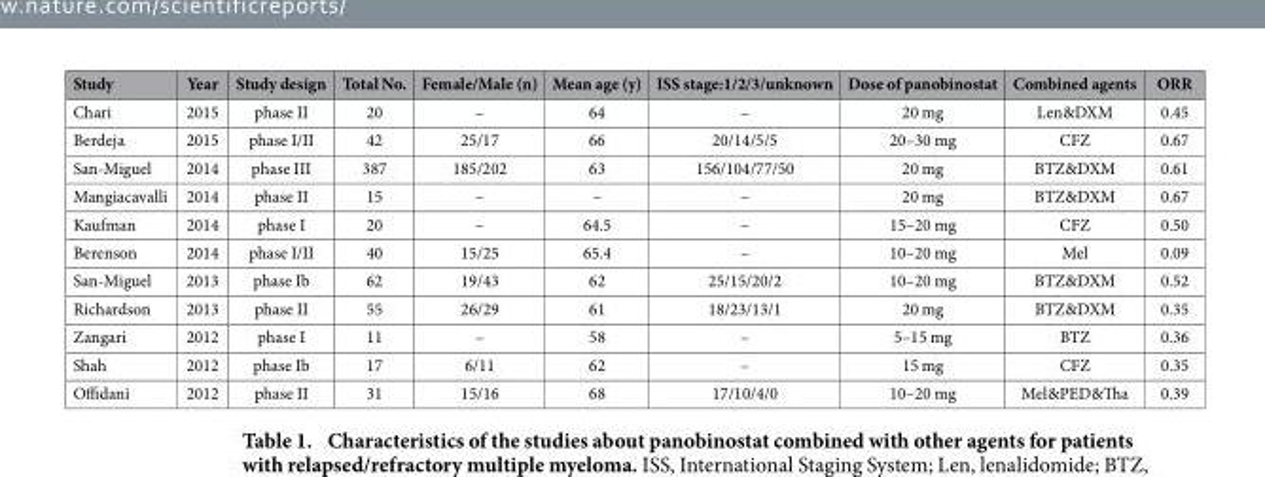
<table><thead><tr><td>Study</td><td>Year</td><td>Study design</td><td>Total No.</td><td>Female/Male (n)</td><td>Mean age (y)</td><td>ISS stage:1/2/3/unknown</td><td>Dose of panobinostat</td><td>Combined agents</td><td>ORR</td></tr></thead><tbody><tr><td>Chari</td><td>2015</td><td>phase II</td><td>20</td><td>–</td><td>64</td><td>–</td><td>20 mg</td><td>Len&amp;DXM</td><td>0.45</td></tr><tr><td>Berdeja</td><td>2015</td><td>phase I/II</td><td>42</td><td>25/17</td><td>66</td><td>20/14/5/5</td><td>20–30 mg</td><td>CFZ</td><td>0.67</td></tr><tr><td>San-Miguel</td><td>2014</td><td>phase III</td><td>387</td><td>185/202</td><td>63</td><td>156/104/77/50</td><td>20 mg</td><td>BTZ&amp;DXM</td><td>0.61</td></tr><tr><td>Mangiacavalli</td><td>2014</td><td>phase II</td><td>15</td><td>–</td><td>–</td><td>–</td><td>20 mg</td><td>BTZ&amp;DXM</td><td>0.67</td></tr><tr><td>Kaufman</td><td>2014</td><td>phase I</td><td>20</td><td>–</td><td>64.5</td><td>–</td><td>15–20 mg</td><td>CFZ</td><td>0.50</td></tr><tr><td>Berenson</td><td>2014</td><td>phase I/II</td><td>40</td><td>15/25</td><td>65.4</td><td>–</td><td>10–20 mg</td><td>Mel</td><td>0.09</td></tr><tr><td>San-Miguel</td><td>2013</td><td>phase Ib</td><td>62</td><td>19/43</td><td>62</td><td>25/15/20/2</td><td>10–20 mg</td><td>BTZ&amp;DXM</td><td>0.52</td></tr><tr><td>Richardson</td><td>2013</td><td>phase II</td><td>55</td><td>26/29</td><td>61</td><td>18/23/13/1</td><td>20 mg</td><td>BTZ&amp;DXM</td><td>0.35</td></tr><tr><td>Zangari</td><td>2012</td><td>phase I</td><td>11</td><td>–</td><td>58</td><td>–</td><td>5–15 mg</td><td>BTZ</td><td>0.36</td></tr><tr><td>Shah</td><td>2012</td><td>phase Ib</td><td>17</td><td>6/11</td><td>62</td><td>–</td><td>15 mg</td><td>CFZ</td><td>0.35</td></tr><tr><td>Offidani</td><td>2012</td><td>phase II</td><td>31</td><td>15/16</td><td>68</td><td>17/10/4/0</td><td>10–20 mg</td><td>Mel&amp;PED&amp;Tha</td><td>0.39</td></tr></tbody></table>